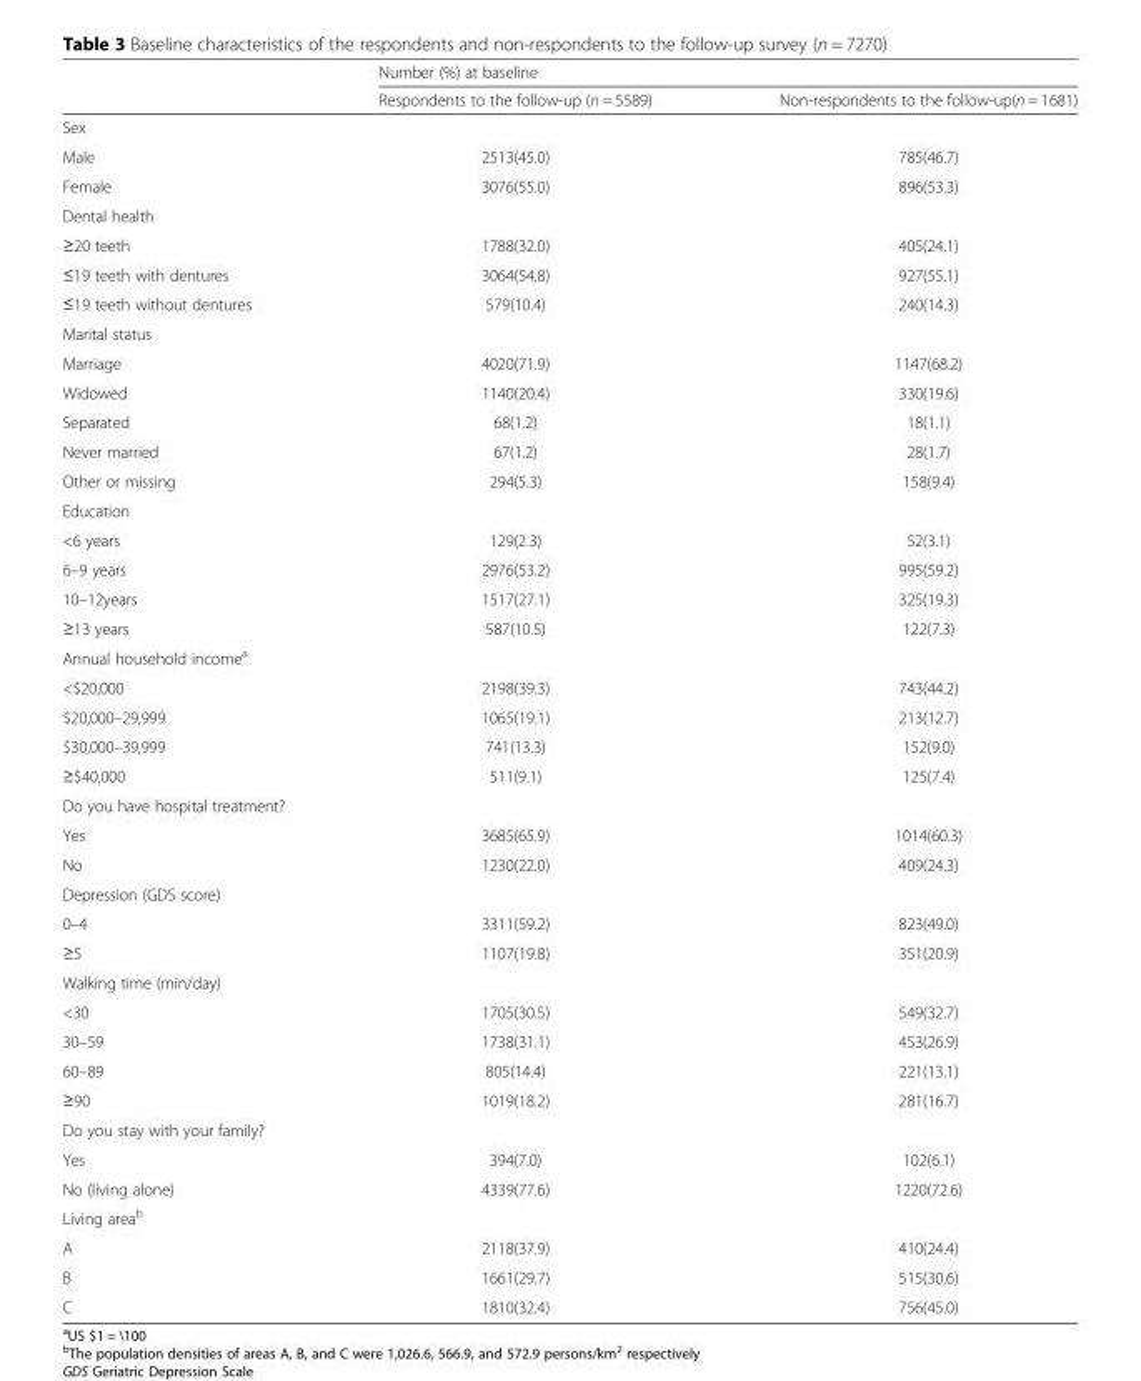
<table><thead><tr><td rowspan="2"></td><td colspan="2">Number (%) at baseline</td></tr><tr><td>Respondents to the follow-up (n = 5589)</td><td>Non-respondents to the follow-up(n = 1681)</td></tr></thead><tbody><tr><td colspan="3">Sex</td></tr><tr><td>Male</td><td>2513(45.0)</td><td>785(46.7)</td></tr><tr><td>Female</td><td>3076(55.0)</td><td>896(53.3)</td></tr><tr><td colspan="3">Dental health</td></tr><tr><td>≥20 teeth</td><td>1788(32.0)</td><td>405(24.1)</td></tr><tr><td>≤19 teeth with dentures</td><td>3064(54.8)</td><td>927(55.1)</td></tr><tr><td>≤19 teeth without dentures</td><td>579(10.4)</td><td>240(14.3)</td></tr><tr><td colspan="3">Marital status</td></tr><tr><td>Marriage</td><td>4020(71.9)</td><td>1147(68.2)</td></tr><tr><td>Widowed</td><td>1140(20.4)</td><td>330(19.6)</td></tr><tr><td>Separated</td><td>68(1.2)</td><td>18(1.1)</td></tr><tr><td>Never married</td><td>67(1.2)</td><td>28(1.7)</td></tr><tr><td>Other or missing</td><td>294(5.3)</td><td>158(9.4)</td></tr><tr><td colspan="3">Education</td></tr><tr><td>&lt;6 years</td><td>129(2.3)</td><td>52(3.1)</td></tr><tr><td>6–9 years</td><td>2976(53.2)</td><td>995(59.2)</td></tr><tr><td>10–12years</td><td>1517(27.1)</td><td>325(19.3)</td></tr><tr><td>≥13 years</td><td>587(10.5)</td><td>122(7.3)</td></tr><tr><td colspan="3">Annual household income<sup>a</sup></td></tr><tr><td>&lt;$20,000</td><td>2198(39.3)</td><td>743(44.2)</td></tr><tr><td>$20,000–29,999</td><td>1065(19.1)</td><td>213(12.7)</td></tr><tr><td>$30,000–39,999</td><td>741(13.3)</td><td>152(9.0)</td></tr><tr><td>≥$40,000</td><td>511(9.1)</td><td>125(7.4)</td></tr><tr><td colspan="3">Do you have hospital treatment?</td></tr><tr><td>Yes</td><td>3685(65.9)</td><td>1014(60.3)</td></tr><tr><td>No</td><td>1230(22.0)</td><td>409(24.3)</td></tr><tr><td colspan="3">Depression (GDS score)</td></tr><tr><td>0–4</td><td>3311(59.2)</td><td>823(49.0)</td></tr><tr><td>≥5</td><td>1107(19.8)</td><td>351(20.9)</td></tr><tr><td colspan="3">Walking time (min/day)</td></tr><tr><td>&lt;30</td><td>1705(30.5)</td><td>549(32.7)</td></tr><tr><td>30–59</td><td>1738(31.1)</td><td>453(26.9)</td></tr><tr><td>60–89</td><td>805(14.4)</td><td>221(13.1)</td></tr><tr><td>≥90</td><td>1019(18.2)</td><td>281(16.7)</td></tr><tr><td colspan="3">Do you stay with your family?</td></tr><tr><td>Yes</td><td>394(7.0)</td><td>102(6.1)</td></tr><tr><td>No (living alone)</td><td>4339(77.6)</td><td>1220(72.6)</td></tr><tr><td colspan="3">Living area<sup>b</sup></td></tr><tr><td>A</td><td>2118(37.9)</td><td>410(24.4)</td></tr><tr><td>B</td><td>1661(29.7)</td><td>515(30.6)</td></tr><tr><td>C</td><td>1810(32.4)</td><td>756(45.0)</td></tr></tbody></table>